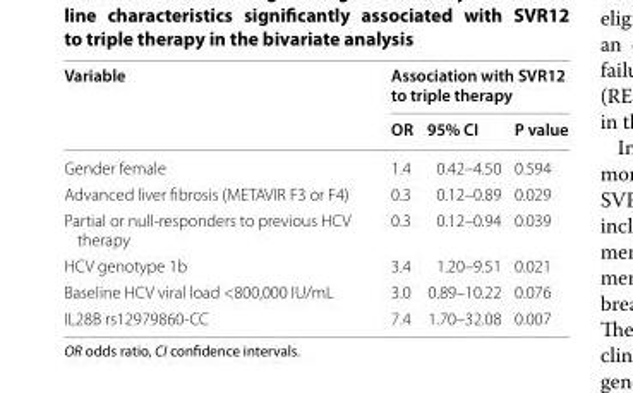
<table><thead><tr><td rowspan="2">Variable</td><td colspan="3">Association with SVR12 to triple therapy</td></tr><tr><td>OR</td><td>95% CI</td><td>P value</td></tr></thead><tbody><tr><td>Gender female</td><td>1.4</td><td>0.42–4.50</td><td>0.594</td></tr><tr><td>Advanced liver fibrosis (METAVIR F3 or F4)</td><td>0.3</td><td>0.12–0.89</td><td>0.029</td></tr><tr><td>Partial or null-responders to previous HCV therapy</td><td>0.3</td><td>0.12–0.94</td><td>0.039</td></tr><tr><td>HCV genotype 1b</td><td>3.4</td><td>1.20–9.51</td><td>0.021</td></tr><tr><td>Baseline HCV viral load &lt;800,000 IU/mL</td><td>3.0</td><td>0.89–10.22</td><td>0.076</td></tr><tr><td>IL28B rs12979860-CC</td><td>7.4</td><td>1.70–32.08</td><td>0.007</td></tr></tbody></table>